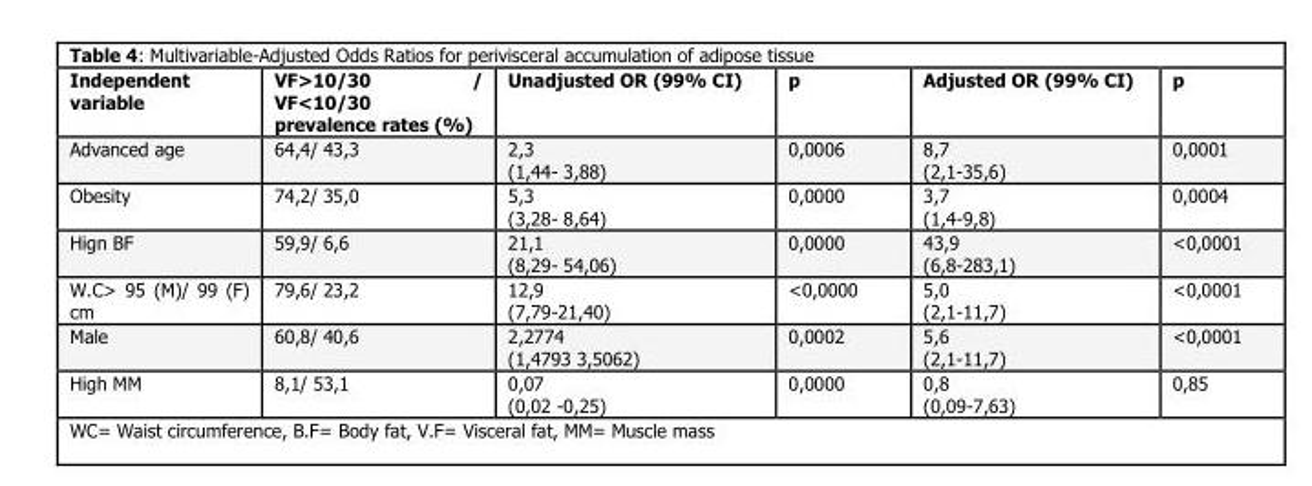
<table><thead><tr><td>Independent variable</td><td>VF&gt;10/30 / VF&lt;10/30 prevalence rates (%)</td><td>Unadjusted OR (99% CI)</td><td>p</td><td>Adjusted OR (99% CI)</td><td>p</td></tr></thead><tbody><tr><td>Advanced age</td><td>64,4/ 43,3</td><td>2,3 (1,44- 3,88)</td><td>0,0006</td><td>8,7 (2,1-35,6)</td><td>0,0001</td></tr><tr><td>Obesity</td><td>74,2/ 35,0</td><td>5,3 (3,28- 8,64)</td><td>0,0000</td><td>3,7 (1,4-9,8)</td><td>0,0004</td></tr><tr><td>Hign BF</td><td>59,9/ 6,6</td><td>21,1 (8,29- 54,06)</td><td>0,0000</td><td>43,9 (6,8-283,1)</td><td>&lt;0,0001</td></tr><tr><td>W.C&gt; 95 (M)/ 99 (F) cm</td><td>79,6/ 23,2</td><td>12,9 (7,79-21,40)</td><td>&lt;0,0000</td><td>5,0 (2,1-11,7)</td><td>&lt;0,0001</td></tr><tr><td>Male</td><td>60,8/ 40,6</td><td>2,2774 (1,4793 3,5062)</td><td>0,0002</td><td>5,6 (2,1-11,7)</td><td>&lt;0,0001</td></tr><tr><td>High MM</td><td>8,1/ 53,1</td><td>0,07 (0,02 -0,25)</td><td>0,0000</td><td>0,8 (0,09-7,63)</td><td>0,85</td></tr></tbody></table>